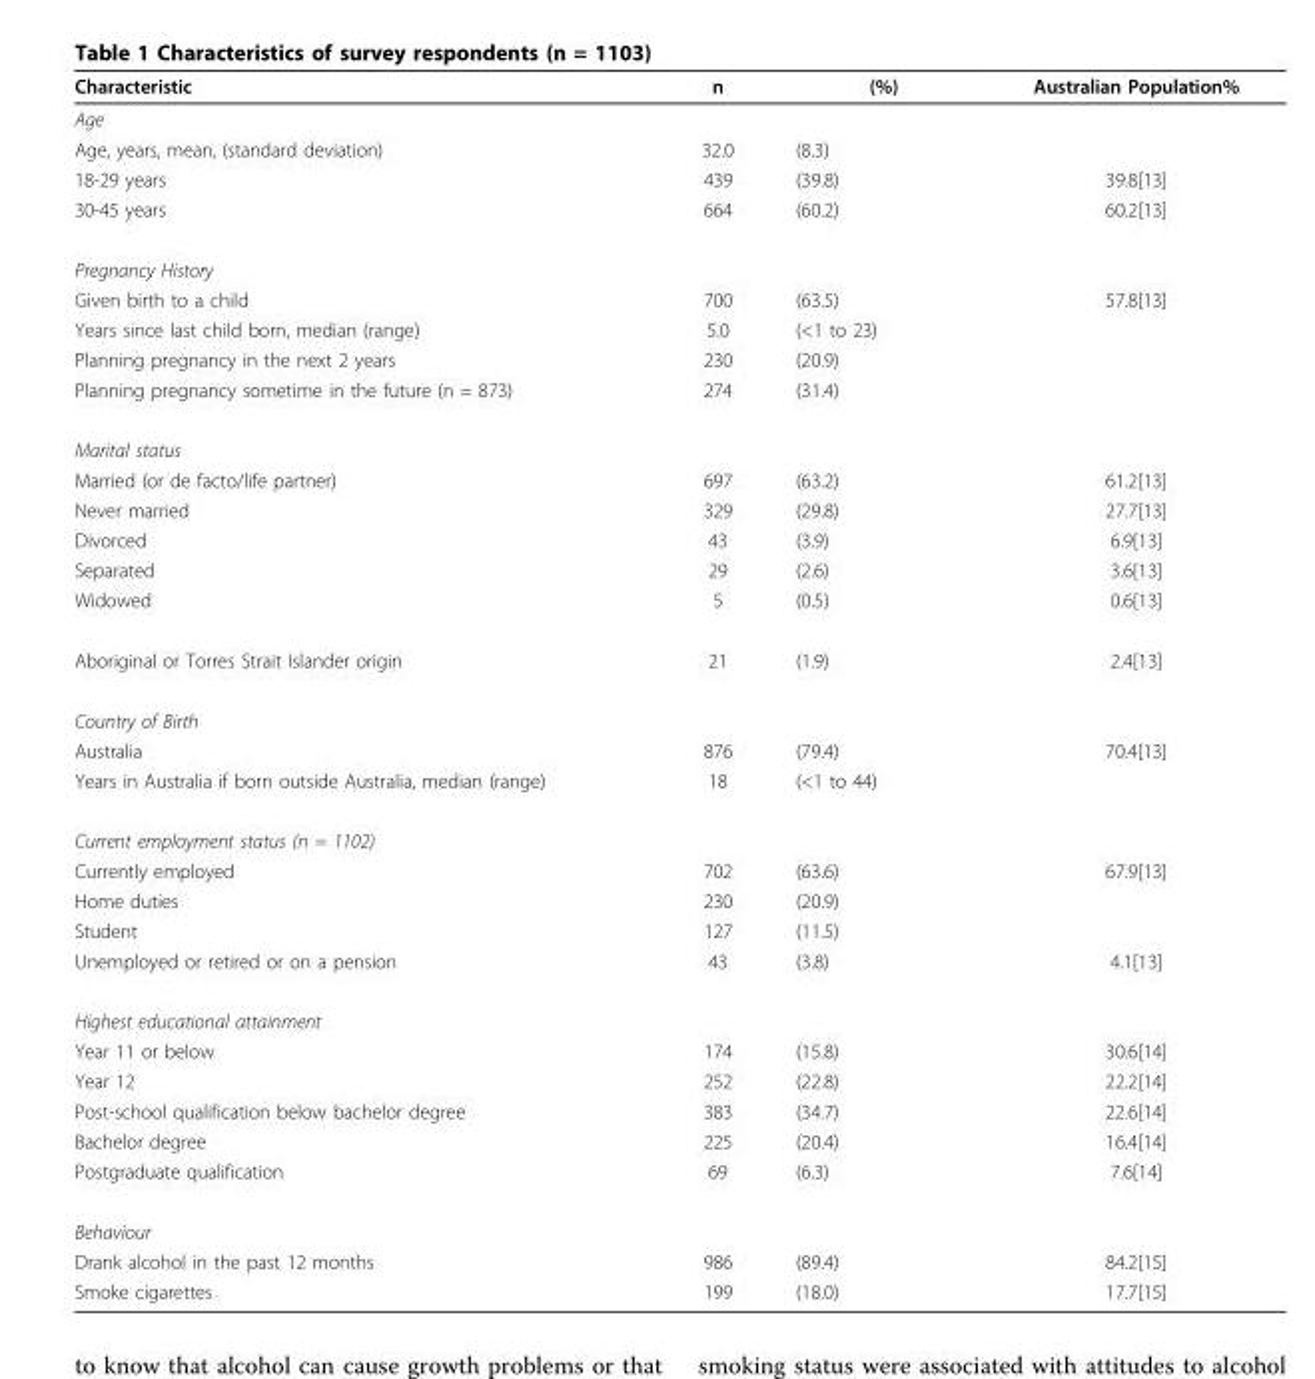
<table><thead><tr><td>Characteristic</td><td>n</td><td>(%)</td><td>Australian Population%</td></tr></thead><tbody><tr><td colspan="4">Age</td></tr><tr><td>Age, years, mean, (standard deviation)</td><td>32.0</td><td>(8.3)</td><td></td></tr><tr><td>18-29 years</td><td>439</td><td>(39.8)</td><td>39.8[13]</td></tr><tr><td>30-45 years</td><td>664</td><td>(60.2)</td><td>60.2[13]</td></tr><tr><td colspan="4">Pregnancy History</td></tr><tr><td>Given birth to a child</td><td>700</td><td>(63.5)</td><td>57.8[13]</td></tr><tr><td>Years since last child born, median (range)</td><td>5.0</td><td>(&lt;1 to 23)</td><td></td></tr><tr><td>Planning pregnancy in the next 2 years</td><td>230</td><td>(20.9)</td><td></td></tr><tr><td>Planning pregnancy sometime in the future (n = 873)</td><td>274</td><td>(31.4)</td><td></td></tr><tr><td colspan="4">Marital status</td></tr><tr><td>Married (or de facto/life partner)</td><td>697</td><td>(63.2)</td><td>61.2[13]</td></tr><tr><td>Never married</td><td>329</td><td>(29.8)</td><td>27.7[13]</td></tr><tr><td>Divorced</td><td>43</td><td>(3.9)</td><td>6.9[13]</td></tr><tr><td>Separated</td><td>29</td><td>(2.6)</td><td>3.6[13]</td></tr><tr><td>Widowed</td><td>5</td><td>(0.5)</td><td>0.6[13]</td></tr><tr><td>Aboriginal or Torres Strait Islander origin</td><td>21</td><td>(1.9)</td><td>2.4[13]</td></tr><tr><td colspan="4">Country of Birth</td></tr><tr><td>Australia</td><td>876</td><td>(79.4)</td><td>70.4[13]</td></tr><tr><td>Years in Australia if born outside Australia, median (range)</td><td>18</td><td>(&lt;1 to 44)</td><td></td></tr><tr><td colspan="4">Current employment status (n = 1102)</td></tr><tr><td>Currently employed</td><td>702</td><td>(63.6)</td><td>67.9[13]</td></tr><tr><td>Home duties</td><td>230</td><td>(20.9)</td><td></td></tr><tr><td>Student</td><td>127</td><td>(11.5)</td><td></td></tr><tr><td>Unemployed or retired or on a pension</td><td>43</td><td>(3.8)</td><td>4.1[13]</td></tr><tr><td colspan="4">Highest educational attainment</td></tr><tr><td>Year 11 or below</td><td>174</td><td>(15.8)</td><td>30.6[14]</td></tr><tr><td>Year 12</td><td>252</td><td>(22.8)</td><td>22.2[14]</td></tr><tr><td>Post-school qualification below bachelor degree</td><td>383</td><td>(34.7)</td><td>22.6[14]</td></tr><tr><td>Bachelor degree</td><td>225</td><td>(20.4)</td><td>16.4[14]</td></tr><tr><td>Postgraduate qualification</td><td>69</td><td>(6.3)</td><td>7.6[14]</td></tr><tr><td colspan="4">Behaviour</td></tr><tr><td>Drank alcohol in the past 12 months</td><td>986</td><td>(89.4)</td><td>84.2[15]</td></tr><tr><td>Smoke cigarettes</td><td>199</td><td>(18.0)</td><td>17.7[15]</td></tr></tbody></table>